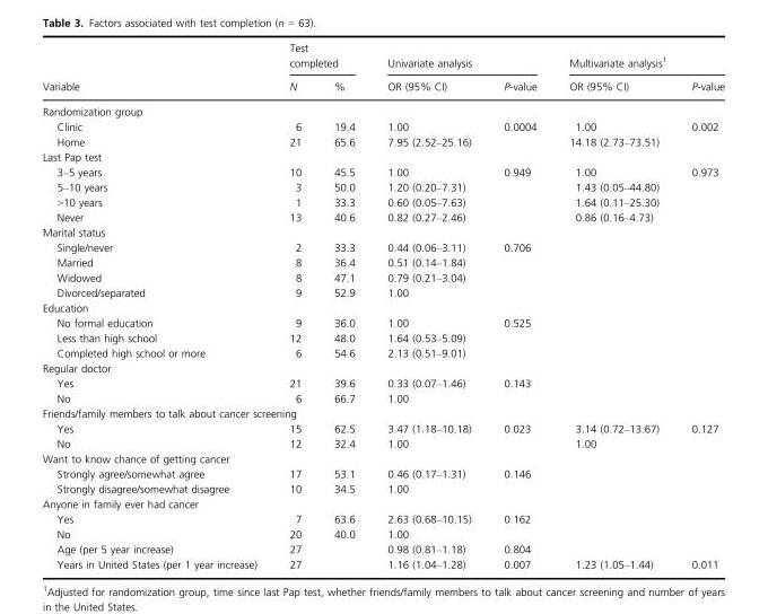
<table><thead><tr><td rowspan="2">Variable</td><td colspan="2">Test completed</td><td colspan="2">Univariate analysis</td><td colspan="2">Multivariate analysis<sup>1</sup></td></tr><tr><td>N</td><td>%</td><td>OR (95% CI)</td><td>P-value</td><td>OR (95% CI)</td><td>P-value</td></tr></thead><tbody><tr><td colspan="7">Randomization group</td></tr><tr><td>Clinic</td><td>6</td><td>19.4</td><td>1.00</td><td rowspan="2">0.0004</td><td>1.00</td><td rowspan="2">0.002</td></tr><tr><td>Home</td><td>21</td><td>65.6</td><td>7.95 (2.52–25.16)</td><td>14.18 (2.73–73.51)</td></tr><tr><td colspan="7">Last Pap test</td></tr><tr><td>3–5 years</td><td>10</td><td>45.5</td><td>1.00</td><td rowspan="4">0.949</td><td>1.00</td><td rowspan="4">0.973</td></tr><tr><td>5–10 years</td><td>3</td><td>50.0</td><td>1.20 (0.20–7.31)</td><td>1.43 (0.05–44.80)</td></tr><tr><td>&gt;10 years</td><td>1</td><td>33.3</td><td>0.60 (0.05–7.63)</td><td>1.64 (0.11–25.30)</td></tr><tr><td>Never</td><td>13</td><td>40.6</td><td>0.82 (0.27–2.46)</td><td>0.86 (0.16–4.73)</td></tr><tr><td colspan="7">Marital status</td></tr><tr><td>Single/never</td><td>2</td><td>33.3</td><td>0.44 (0.06–3.11)</td><td rowspan="4">0.706</td><td></td><td></td></tr><tr><td>Married</td><td>8</td><td>36.4</td><td>0.51 (0.14–1.84)</td><td></td><td></td></tr><tr><td>Widowed</td><td>8</td><td>47.1</td><td>0.79 (0.21–3.04)</td><td></td><td></td></tr><tr><td>Divorced/separated</td><td>9</td><td>52.9</td><td>1.00</td><td></td><td></td></tr><tr><td colspan="7">Education</td></tr><tr><td>No formal education</td><td>9</td><td>36.0</td><td>1.00</td><td rowspan="3">0.525</td><td></td><td></td></tr><tr><td>Less than high school</td><td>12</td><td>48.0</td><td>1.64 (0.53–5.09)</td><td></td><td></td></tr><tr><td>Completed high school or more</td><td>6</td><td>54.6</td><td>2.13 (0.51–9.01)</td><td></td><td></td></tr><tr><td colspan="7">Regular doctor</td></tr><tr><td>Yes</td><td>21</td><td>39.6</td><td>0.33 (0.07–1.46)</td><td rowspan="2">0.143</td><td></td><td></td></tr><tr><td>No</td><td>6</td><td>66.7</td><td>1.00</td><td></td><td></td></tr><tr><td colspan="7">Friends/family members to talk about cancer screening</td></tr><tr><td>Yes</td><td>15</td><td>62.5</td><td>3.47 (1.18–10.18)</td><td rowspan="2">0.023</td><td>3.14 (0.72–13.67)</td><td rowspan="2">0.127</td></tr><tr><td>No</td><td>12</td><td>32.4</td><td>1.00</td><td>1.00</td></tr><tr><td colspan="7">Want to know chance of getting cancer</td></tr><tr><td>Strongly agree/somewhat agree</td><td>17</td><td>53.1</td><td>0.46 (0.17–1.31)</td><td rowspan="2">0.146</td><td></td><td></td></tr><tr><td>Strongly disagree/somewhat disagree</td><td>10</td><td>34.5</td><td>1.00</td><td></td><td></td></tr><tr><td colspan="7">Anyone in family ever had cancer</td></tr><tr><td>Yes</td><td>7</td><td>63.6</td><td>2.63 (0.68–10.15)</td><td rowspan="2">0.162</td><td></td><td></td></tr><tr><td>No</td><td>20</td><td>40.0</td><td>1.00</td><td></td><td></td></tr><tr><td>Age (per 5 year increase)</td><td>27</td><td></td><td>0.98 (0.81–1.18)</td><td>0.804</td><td></td><td></td></tr><tr><td>Years in United States (per 1 year increase)</td><td>27</td><td></td><td>1.16 (1.04–1.28)</td><td>0.007</td><td>1.23 (1.05–1.44)</td><td>0.011</td></tr></tbody></table>